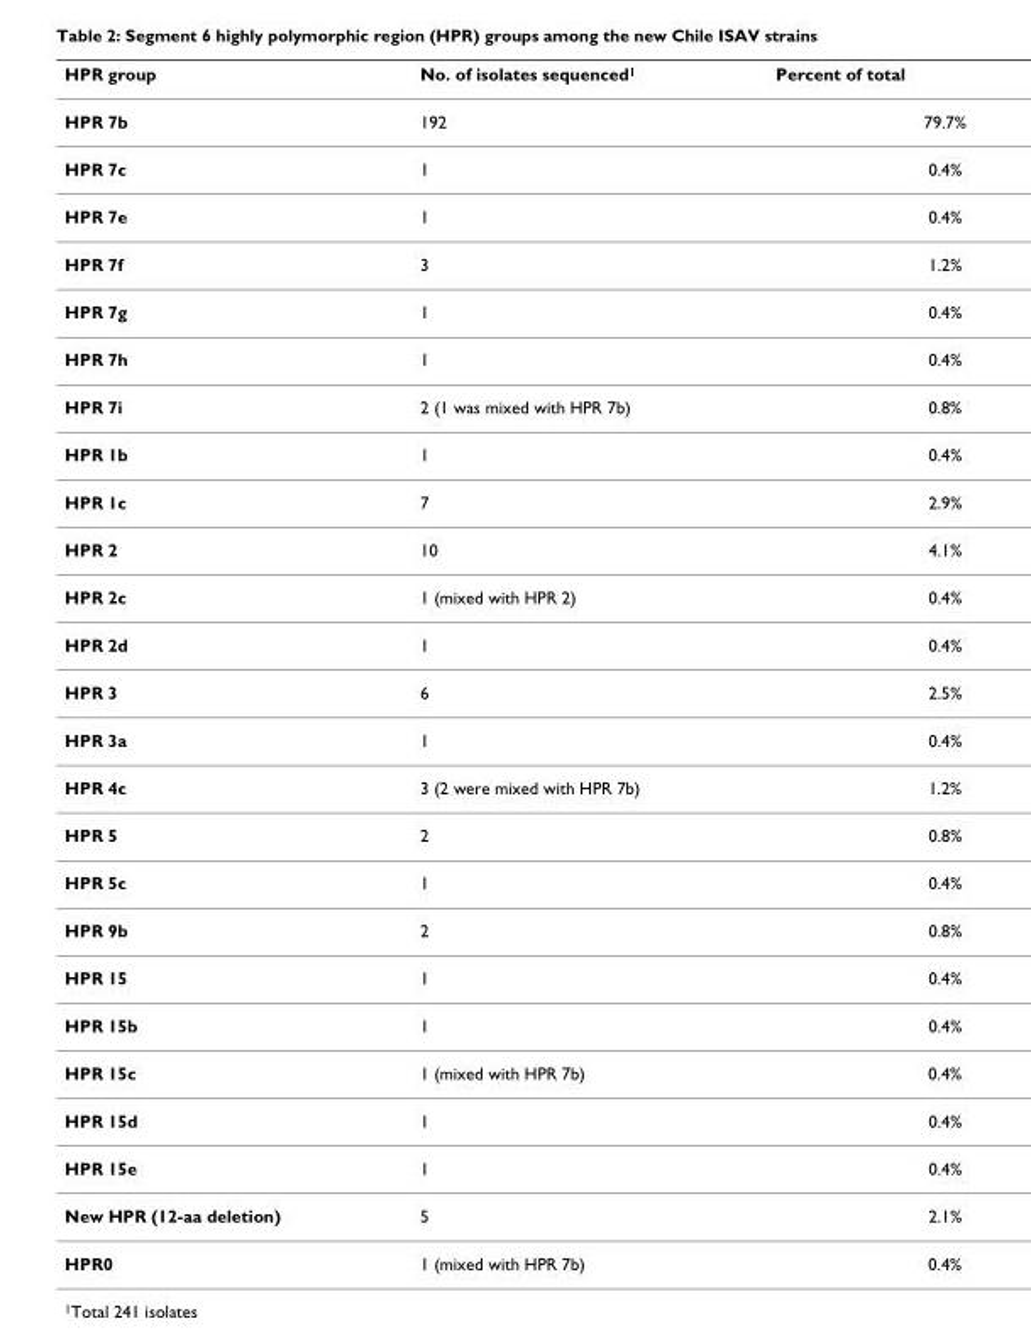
<table><thead><tr><td>HPR group</td><td>No. of isolates sequenced<sup>1</sup></td><td>Percent of total</td></tr></thead><tbody><tr><td>HPR 7b</td><td>192</td><td>79.7%</td></tr><tr><td>HPR 7c</td><td>1</td><td>0.4%</td></tr><tr><td>HPR 7e</td><td>1</td><td>0.4%</td></tr><tr><td>HPR 7f</td><td>3</td><td>1.2%</td></tr><tr><td>HPR 7g</td><td>1</td><td>0.4%</td></tr><tr><td>HPR 7h</td><td>1</td><td>0.4%</td></tr><tr><td>HPR 7i</td><td>2 (1 was mixed with HPR 7b)</td><td>0.8%</td></tr><tr><td>HPR 1b</td><td>1</td><td>0.4%</td></tr><tr><td>HPR 1c</td><td>7</td><td>2.9%</td></tr><tr><td>HPR 2</td><td>10</td><td>4.1%</td></tr><tr><td>HPR 2c</td><td>1 (mixed with HPR 2)</td><td>0.4%</td></tr><tr><td>HPR 2d</td><td>1</td><td>0.4%</td></tr><tr><td>HPR 3</td><td>6</td><td>2.5%</td></tr><tr><td>HPR 3a</td><td>1</td><td>0.4%</td></tr><tr><td>HPR 4c</td><td>3 (2 were mixed with HPR 7b)</td><td>1.2%</td></tr><tr><td>HPR 5</td><td>2</td><td>0.8%</td></tr><tr><td>HPR 5c</td><td>1</td><td>0.4%</td></tr><tr><td>HPR 9b</td><td>2</td><td>0.8%</td></tr><tr><td>HPR 15</td><td>1</td><td>0.4%</td></tr><tr><td>HPR 15b</td><td>1</td><td>0.4%</td></tr><tr><td>HPR 15c</td><td>1 (mixed with HPR 7b)</td><td>0.4%</td></tr><tr><td>HPR 15d</td><td>1</td><td>0.4%</td></tr><tr><td>HPR 15e</td><td>1</td><td>0.4%</td></tr><tr><td>New HPR (12-aa deletion)</td><td>5</td><td>2.1%</td></tr><tr><td>HPR0</td><td>1 (mixed with HPR 7b)</td><td>0.4%</td></tr></tbody></table>